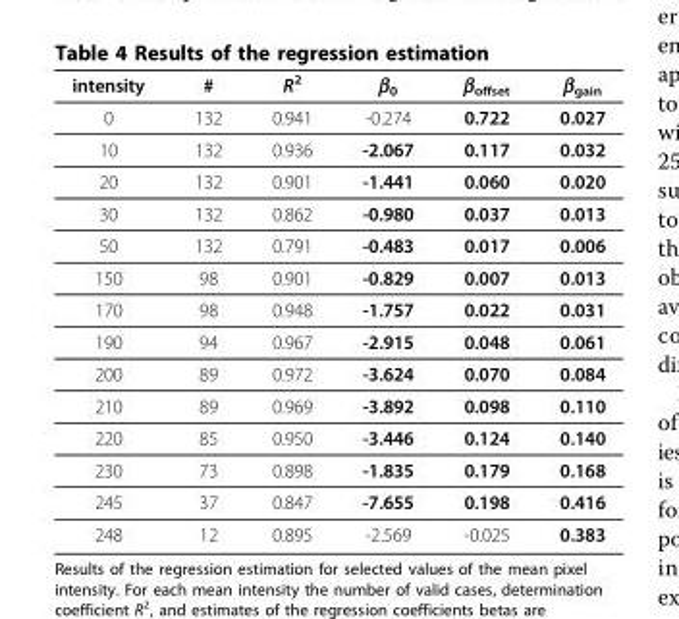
<table><thead><tr><td>intensity</td><td>#</td><td>R<sup>2</sup></td><td>β<sub>0</sub></td><td>β<sub>offset</sub></td><td>β<sub>gain</sub></td></tr></thead><tbody><tr><td>0</td><td>132</td><td>0.941</td><td>-0.274</td><td>0.722</td><td>0.027</td></tr><tr><td>10</td><td>132</td><td>0.936</td><td>-2.067</td><td>0.117</td><td>0.032</td></tr><tr><td>20</td><td>132</td><td>0.901</td><td>-1.441</td><td>0.060</td><td>0.020</td></tr><tr><td>30</td><td>132</td><td>0.862</td><td>-0.980</td><td>0.037</td><td>0.013</td></tr><tr><td>50</td><td>132</td><td>0.791</td><td>-0.483</td><td>0.017</td><td>0.006</td></tr><tr><td>150</td><td>98</td><td>0.901</td><td>-0.829</td><td>0.007</td><td>0.013</td></tr><tr><td>170</td><td>98</td><td>0.948</td><td>-1.757</td><td>0.022</td><td>0.031</td></tr><tr><td>190</td><td>94</td><td>0.967</td><td>-2.915</td><td>0.048</td><td>0.061</td></tr><tr><td>200</td><td>89</td><td>0.972</td><td>-3.624</td><td>0.070</td><td>0.084</td></tr><tr><td>210</td><td>89</td><td>0.969</td><td>-3.892</td><td>0.098</td><td>0.110</td></tr><tr><td>220</td><td>85</td><td>0.950</td><td>-3.446</td><td>0.124</td><td>0.140</td></tr><tr><td>230</td><td>73</td><td>0.898</td><td>-1.835</td><td>0.179</td><td>0.168</td></tr><tr><td>245</td><td>37</td><td>0.847</td><td>-7.655</td><td>0.198</td><td>0.416</td></tr><tr><td>248</td><td>12</td><td>0.895</td><td>-2.569</td><td>-0.025</td><td>0.383</td></tr></tbody></table>